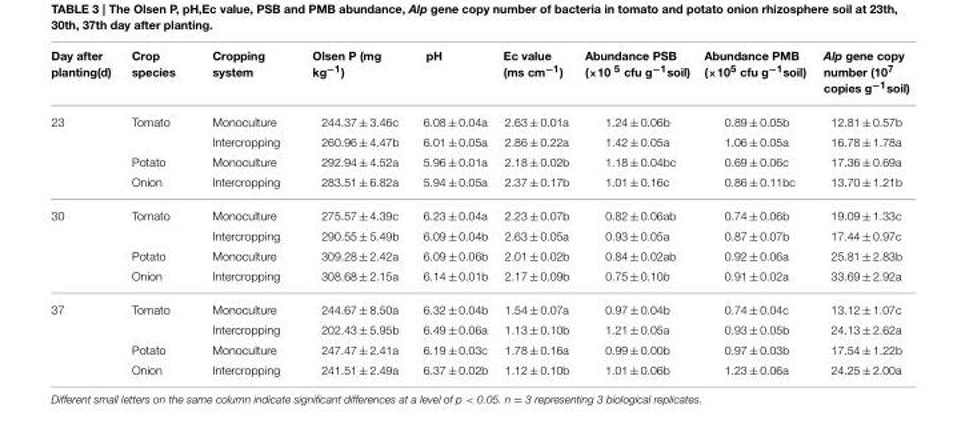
<table><thead><tr><td>Day after planting(d)</td><td>Crop species</td><td>Cropping system</td><td>Olsen P (mg kg<sup>−1</sup>)</td><td>pH</td><td>Ec value (ms cm<sup>−1</sup>)</td><td>Abundance PSB (×10 <sup>5</sup> cfu g<sup>−1</sup>soil)</td><td>Abundance PMB (×10<sup>5</sup> cfu g<sup>−1</sup>soil)</td><td>Alp gene copy number (10<sup>7</sup> copies g<sup>−1</sup>soil)</td></tr></thead><tbody><tr><td rowspan="4">23</td><td>Tomato</td><td>Monoculture</td><td>244.37 ± 3.46c</td><td>6.08 ± 0.04a</td><td>2.63 ± 0.01a</td><td>1.24 ± 0.06b</td><td>0.89 ± 0.05b</td><td>12.81 ± 0.57b</td></tr><tr><td></td><td>Intercropping</td><td>260.96 ± 4.47b</td><td>6.01 ± 0.05a</td><td>2.86 ± 0.22a</td><td>1.42 ± 0.05a</td><td>1.06 ± 0.05a</td><td>16.78 ± 1.78a</td></tr><tr><td>Potato</td><td>Monoculture</td><td>292.94 ± 4.52a</td><td>5.96 ± 0.01a</td><td>2.18 ± 0.02b</td><td>1.18 ± 0.04bc</td><td>0.69 ± 0.06c</td><td>17.36 ± 0.69a</td></tr><tr><td>Onion</td><td>Intercropping</td><td>283.51 ± 6.82a</td><td>5.94 ± 0.05a</td><td>2.37 ± 0.17b</td><td>1.01 ± 0.16c</td><td>0.86 ± 0.11bc</td><td>13.70 ± 1.21b</td></tr><tr><td rowspan="4">30</td><td>Tomato</td><td>Monoculture</td><td>275.57 ± 4.39c</td><td>6.23 ± 0.04a</td><td>2.23 ± 0.07b</td><td>0.82 ± 0.06ab</td><td>0.74 ± 0.06b</td><td>19.09 ± 1.33c</td></tr><tr><td></td><td>Intercropping</td><td>290.55 ± 5.49b</td><td>6.09 ± 0.04b</td><td>2.63 ± 0.05a</td><td>0.93 ± 0.05a</td><td>0.87 ± 0.07b</td><td>17.44 ± 0.97c</td></tr><tr><td>Potato</td><td>Monoculture</td><td>309.28 ± 2.42a</td><td>6.09 ± 0.06b</td><td>2.01 ± 0.02b</td><td>0.84 ± 0.02ab</td><td>0.92 ± 0.06a</td><td>25.81 ± 2.83b</td></tr><tr><td>Onion</td><td>Intercropping</td><td>308.68 ± 2.15a</td><td>6.14 ± 0.01b</td><td>2.17 ± 0.09b</td><td>0.75 ± 0.10b</td><td>0.91 ± 0.02a</td><td>33.69 ± 2.92a</td></tr><tr><td rowspan="4">37</td><td>Tomato</td><td>Monoculture</td><td>244.67 ± 8.50a</td><td>6.32 ± 0.04b</td><td>1.54 ± 0.07a</td><td>0.97 ± 0.04b</td><td>0.74 ± 0.04c</td><td>13.12 ± 1.07c</td></tr><tr><td></td><td>Intercropping</td><td>202.43 ± 5.95b</td><td>6.49 ± 0.06a</td><td>1.13 ± 0.10b</td><td>1.21 ± 0.05a</td><td>0.93 ± 0.05b</td><td>24.13 ± 2.62a</td></tr><tr><td>Potato</td><td>Monoculture</td><td>247.47 ± 2.41a</td><td>6.19 ± 0.03c</td><td>1.78 ± 0.16a</td><td>0.99 ± 0.00b</td><td>0.97 ± 0.03b</td><td>17.54 ± 1.22b</td></tr><tr><td>Onion</td><td>Intercropping</td><td>241.51 ± 2.49a</td><td>6.37 ± 0.02b</td><td>1.12 ± 0.10b</td><td>1.01 ± 0.06b</td><td>1.23 ± 0.06a</td><td>24.25 ± 2.00a</td></tr></tbody></table>